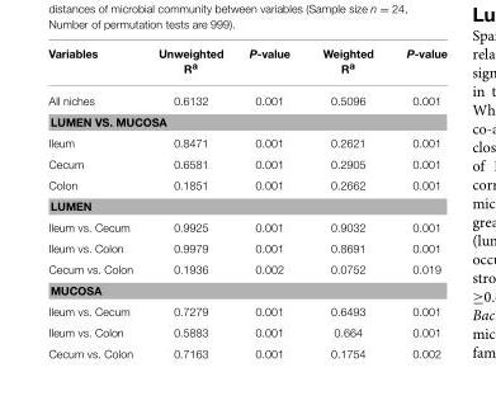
<table><thead><tr><td>Variables</td><td>Unweighted R<sup>a</sup></td><td>P-value</td><td>Weighted R<sup>a</sup></td><td>P-value</td></tr></thead><tbody><tr><td>All niches</td><td>0.6132</td><td>0.001</td><td>0.5096</td><td>0.001</td></tr><tr><td colspan="5">LUMEN VS. MUCOSA</td></tr><tr><td>Ileum</td><td>0.8471</td><td>0.001</td><td>0.2621</td><td>0.001</td></tr><tr><td>Cecum</td><td>0.6581</td><td>0.001</td><td>0.2905</td><td>0.001</td></tr><tr><td>Colon</td><td>0.1851</td><td>0.001</td><td>0.2662</td><td>0.001</td></tr><tr><td colspan="5">LUMEN</td></tr><tr><td>Ileum vs. Cecum</td><td>0.9925</td><td>0.001</td><td>0.9032</td><td>0.001</td></tr><tr><td>Ileum vs. Colon</td><td>0.9979</td><td>0.001</td><td>0.8691</td><td>0.001</td></tr><tr><td>Cecum vs. Colon</td><td>0.1936</td><td>0.002</td><td>0.0752</td><td>0.019</td></tr><tr><td colspan="5">MUCOSA</td></tr><tr><td>Ileum vs. Cecum</td><td>0.7279</td><td>0.001</td><td>0.6493</td><td>0.001</td></tr><tr><td>Ileum vs. Colon</td><td>0.5883</td><td>0.001</td><td>0.664</td><td>0.001</td></tr><tr><td>Cecum vs. Colon</td><td>0.7163</td><td>0.001</td><td>0.1754</td><td>0.002</td></tr></tbody></table>